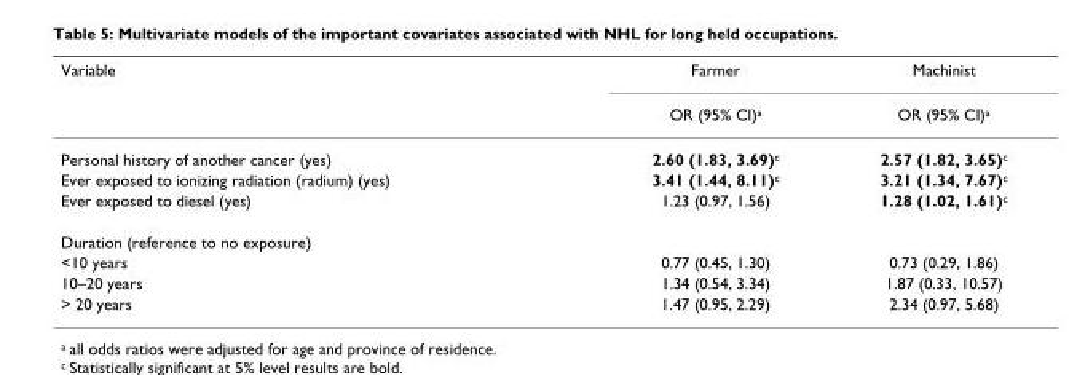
<table><thead><tr><td rowspan="2">Variable</td><td rowspan="2">Farmer OR (95% CI)<sup>a</sup></td><td rowspan="2">Machinist OR (95% CI)<sup>a</sup></td></tr><tr></tr></thead><tbody><tr><td>Personal history of another cancer (yes)</td><td>2.60 (1.83, 3.69)<sup>c</sup></td><td>2.57 (1.82, 3.65)<sup>c</sup></td></tr><tr><td>Ever exposed to ionizing radiation (radium) (yes)</td><td>3.41 (1.44, 8.11)<sup>c</sup></td><td>3.21 (1.34, 7.67)<sup>c</sup></td></tr><tr><td>Ever exposed to diesel (yes)</td><td>1.23 (0.97, 1.56)</td><td>1.28 (1.02, 1.61)<sup>c</sup></td></tr><tr><td colspan="3">Duration (reference to no exposure)</td></tr><tr><td>&lt;10 years</td><td>0.77 (0.45, 1.30)</td><td>0.73 (0.29, 1.86)</td></tr><tr><td>10–20 years</td><td>1.34 (0.54, 3.34)</td><td>1.87 (0.33, 10.57)</td></tr><tr><td>&gt; 20 years</td><td>1.47 (0.95, 2.29)</td><td>2.34 (0.97, 5.68)</td></tr></tbody></table>